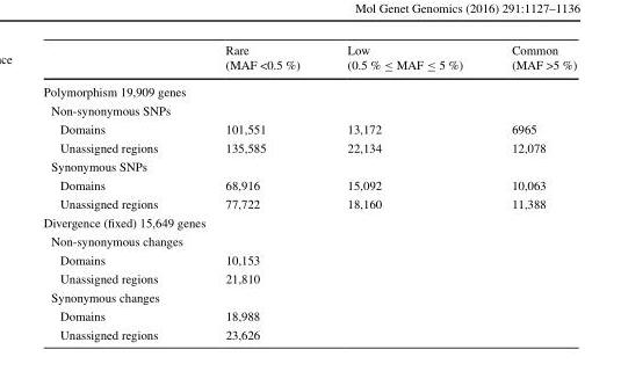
<table><thead><tr><td></td><td>Rare (MAF &lt;0.5 %)</td><td>Low (0.5 % ≤ MAF ≤ 5 %)</td><td>Common (MAF &gt;5 %)</td></tr></thead><tbody><tr><td colspan="4">Polymorphism 19,909 genes</td></tr><tr><td colspan="4">Non-synonymous SNPs</td></tr><tr><td>Domains</td><td>101,551</td><td>13,172</td><td>6965</td></tr><tr><td>Unassigned regions</td><td>135,585</td><td>22,134</td><td>12,078</td></tr><tr><td colspan="4">Synonymous SNPs</td></tr><tr><td>Domains</td><td>68,916</td><td>15,092</td><td>10,063</td></tr><tr><td>Unassigned regions</td><td>77,722</td><td>18,160</td><td>11,388</td></tr><tr><td colspan="4">Divergence (fixed) 15,649 genes</td></tr><tr><td colspan="4">Non-synonymous changes</td></tr><tr><td>Domains</td><td colspan="3">10,153</td></tr><tr><td>Unassigned regions</td><td colspan="3">21,810</td></tr><tr><td colspan="4">Synonymous changes</td></tr><tr><td>Domains</td><td colspan="3">18,988</td></tr><tr><td>Unassigned regions</td><td colspan="3">23,626</td></tr></tbody></table>